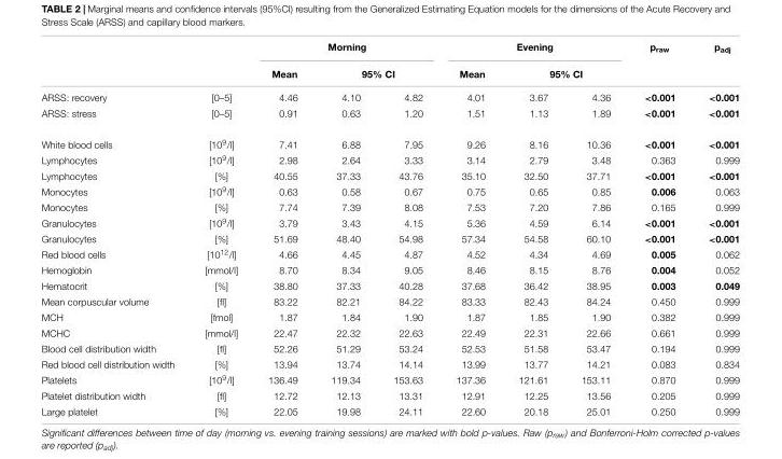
<table><thead><tr><td rowspan="3">ARSS: recovery</td><td rowspan="3">[0–5]</td><td colspan="3">Morning</td><td colspan="3">Evening</td><td rowspan="3">p<sub>raw</sub> &lt;0.001</td><td rowspan="3">p<sub>adj</sub> &lt;0.001</td></tr><tr><td rowspan="2">Mean 4.46</td><td colspan="2">95% CI</td><td rowspan="2">Mean 4.01</td><td colspan="2">95% CI</td></tr><tr><td>4.10</td><td>4.82</td><td>3.67</td><td>4.36</td></tr></thead><tbody><tr><td>ARSS: stress</td><td>[0–5]</td><td>0.91</td><td>0.63</td><td>1.20</td><td>1.51</td><td>1.13</td><td>1.89</td><td>&lt;0.001</td><td>&lt;0.001</td></tr><tr><td>White blood cells</td><td>[10<sup>9</sup>/l]</td><td>7.41</td><td>6.88</td><td>7.95</td><td>9.26</td><td>8.16</td><td>10.36</td><td>&lt;0.001</td><td>&lt;0.001</td></tr><tr><td>Lymphocytes</td><td>[10<sup>9</sup>/l]</td><td>2.98</td><td>2.64</td><td>3.33</td><td>3.14</td><td>2.79</td><td>3.48</td><td>0.363</td><td>0.999</td></tr><tr><td>Lymphocytes</td><td>[%]</td><td>40.55</td><td>37.33</td><td>43.76</td><td>35.10</td><td>32.50</td><td>37.71</td><td>&lt;0.001</td><td>&lt;0.001</td></tr><tr><td>Monocytes</td><td>[10<sup>9</sup>/l]</td><td>0.63</td><td>0.58</td><td>0.67</td><td>0.75</td><td>0.65</td><td>0.85</td><td>0.006</td><td>0.063</td></tr><tr><td>Monocytes</td><td>[%]</td><td>7.74</td><td>7.39</td><td>8.08</td><td>7.53</td><td>7.20</td><td>7.86</td><td>0.165</td><td>0.999</td></tr><tr><td>Granulocytes</td><td>[10<sup>9</sup>/l]</td><td>3.79</td><td>3.43</td><td>4.15</td><td>5.36</td><td>4.59</td><td>6.14</td><td>&lt;0.001</td><td>&lt;0.001</td></tr><tr><td>Granulocytes</td><td>[%]</td><td>51.69</td><td>48.40</td><td>54.98</td><td>57.34</td><td>54.58</td><td>60.10</td><td>&lt;0.001</td><td>&lt;0.001</td></tr><tr><td>Red blood cells</td><td>[10<sup>12</sup>/l]</td><td>4.66</td><td>4.45</td><td>4.87</td><td>4.52</td><td>4.34</td><td>4.69</td><td>0.005</td><td>0.062</td></tr><tr><td>Hemoglobin</td><td>[mmol/l]</td><td>8.70</td><td>8.34</td><td>9.05</td><td>8.46</td><td>8.15</td><td>8.76</td><td>0.004</td><td>0.052</td></tr><tr><td>Hematocrit</td><td>[%]</td><td>38.80</td><td>37.33</td><td>40.28</td><td>37.68</td><td>36.42</td><td>38.95</td><td>0.003</td><td>0.049</td></tr><tr><td>Mean corpuscular volume</td><td>[fl]</td><td>83.22</td><td>82.21</td><td>84.22</td><td>83.33</td><td>82.43</td><td>84.24</td><td>0.450</td><td>0.999</td></tr><tr><td>MCH</td><td>[fmol]</td><td>1.87</td><td>1.84</td><td>1.90</td><td>1.87</td><td>1.85</td><td>1.90</td><td>0.382</td><td>0.999</td></tr><tr><td>MCHC</td><td>[mmol/l]</td><td>22.47</td><td>22.32</td><td>22.63</td><td>22.49</td><td>22.31</td><td>22.66</td><td>0.661</td><td>0.999</td></tr><tr><td>Blood cell distribution width</td><td>[fl]</td><td>52.26</td><td>51.29</td><td>53.24</td><td>52.53</td><td>51.58</td><td>53.47</td><td>0.194</td><td>0.999</td></tr><tr><td>Red blood cell distribution width</td><td>[%]</td><td>13.94</td><td>13.74</td><td>14.14</td><td>13.99</td><td>13.77</td><td>14.21</td><td>0.083</td><td>0.834</td></tr><tr><td>Platelets</td><td>[10<sup>9</sup>/l]</td><td>136.49</td><td>119.34</td><td>153.63</td><td>137.36</td><td>121.61</td><td>153.11</td><td>0.870</td><td>0.999</td></tr><tr><td>Platelet distribution width</td><td>[fl]</td><td>12.72</td><td>12.13</td><td>13.31</td><td>12.91</td><td>12.25</td><td>13.56</td><td>0.205</td><td>0.999</td></tr><tr><td>Large platelet</td><td>[%]</td><td>22.05</td><td>19.98</td><td>24.11</td><td>22.60</td><td>20.18</td><td>25.01</td><td>0.250</td><td>0.999</td></tr></tbody></table>